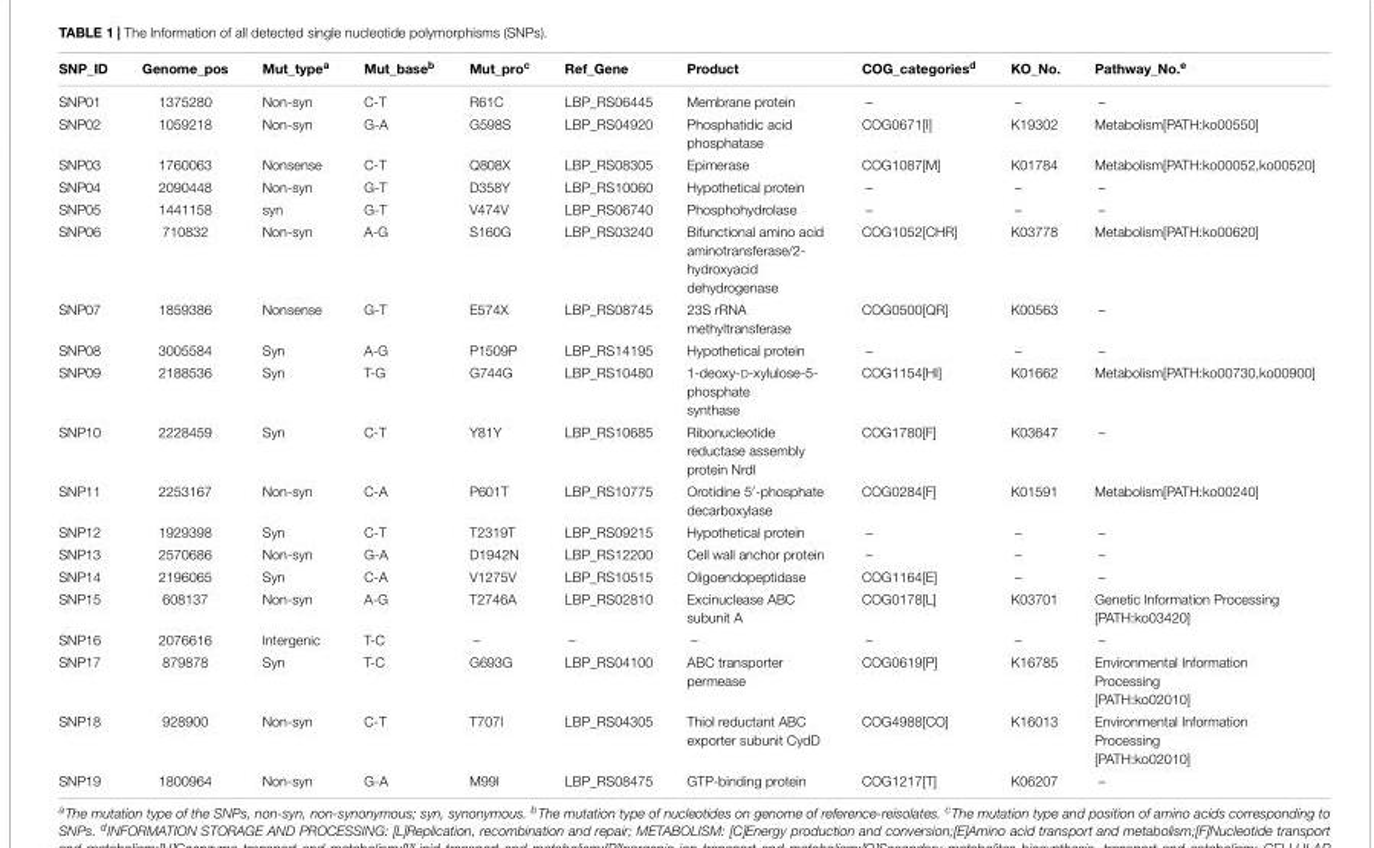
<table><thead><tr><td>SNP_ID</td><td>Genome_pos</td><td>Mut_type<sup>a</sup></td><td>Mut_base<sup>b</sup></td><td>Mut_pro<sup>c</sup></td><td>Ref_Gene</td><td>Product</td><td>COG_categories<sup>d</sup></td><td>KO_No.</td><td>Pathway_No.<sup>e</sup></td></tr></thead><tbody><tr><td>SNP01</td><td>1375280</td><td>Non-syn</td><td>C-T</td><td>R61C</td><td>LBP_RS06445</td><td>Membrane protein</td><td>–</td><td>–</td><td>–</td></tr><tr><td>SNP02</td><td>1059218</td><td>Non-syn</td><td>G-A</td><td>G598S</td><td>LBP_RS04920</td><td>Phosphatidic acid phosphatase</td><td>COG0671[I]</td><td>K19302</td><td>Metabolism[PATH:ko00550]</td></tr><tr><td>SNP03</td><td>1760063</td><td>Nonsense</td><td>C-T</td><td>Q808X</td><td>LBP_RS08305</td><td>Epimerase</td><td>COG1087[M]</td><td>K01784</td><td>Metabolism[PATH:ko00052,ko00520]</td></tr><tr><td>SNP04</td><td>2090448</td><td>Non-syn</td><td>G-T</td><td>D358Y</td><td>LBP_RS10060</td><td>Hypothetical protein</td><td>–</td><td>–</td><td>–</td></tr><tr><td>SNP05</td><td>1441158</td><td>syn</td><td>G-T</td><td>V474V</td><td>LBP_RS06740</td><td>Phosphohydrolase</td><td>–</td><td>–</td><td>–</td></tr><tr><td>SNP06</td><td>710832</td><td>Non-syn</td><td>A-G</td><td>S160G</td><td>LBP_RS03240</td><td>Bifunctional amino acid aminotransferase/2- hydroxyacid dehydrogenase</td><td>COG1052[CHR]</td><td>K03778</td><td>Metabolism[PATH:ko00620]</td></tr><tr><td>SNP07</td><td>1859386</td><td>Nonsense</td><td>G-T</td><td>E574X</td><td>LBP_RS08745</td><td>23S rRNA methyltransferase</td><td>COG0500[QR]</td><td>K00563</td><td>–</td></tr><tr><td>SNP08</td><td>3005584</td><td>Syn</td><td>A-G</td><td>P1509P</td><td>LBP_RS14195</td><td>Hypothetical protein</td><td>–</td><td>–</td><td>–</td></tr><tr><td>SNP09</td><td>2188536</td><td>Syn</td><td>T-G</td><td>G744G</td><td>LBP_RS10480</td><td>1-deoxy-D-xylulose-5- phosphate synthase</td><td>COG1154[HI]</td><td>K01662</td><td>Metabolism[PATH:ko00730,ko00900]</td></tr><tr><td>SNP10</td><td>2228459</td><td>Syn</td><td>C-T</td><td>Y81Y</td><td>LBP_RS10685</td><td>Ribonucleotide reductase assembly protein NrdI</td><td>COG1780[F]</td><td>K03647</td><td>–</td></tr><tr><td>SNP11</td><td>2253167</td><td>Non-syn</td><td>C-A</td><td>P601T</td><td>LBP_RS10775</td><td>Orotidine 5′-phosphate decarboxylase</td><td>COG0284[F]</td><td>K01591</td><td>Metabolism[PATH:ko00240]</td></tr><tr><td>SNP12</td><td>1929398</td><td>Syn</td><td>C-T</td><td>T2319T</td><td>LBP_RS09215</td><td>Hypothetical protein</td><td>–</td><td>–</td><td>–</td></tr><tr><td>SNP13</td><td>2570686</td><td>Non-syn</td><td>G-A</td><td>D1942N</td><td>LBP_RS12200</td><td>Cell wall anchor protein</td><td>–</td><td>–</td><td>–</td></tr><tr><td>SNP14</td><td>2196065</td><td>Syn</td><td>C-A</td><td>V1275V</td><td>LBP_RS10515</td><td>Oligoendopeptidase</td><td>COG1164[E]</td><td>–</td><td>–</td></tr><tr><td>SNP15</td><td>608137</td><td>Non-syn</td><td>A-G</td><td>T2746A</td><td>LBP_RS02810</td><td>Excinuclease ABC subunit A</td><td>COG0178[L]</td><td>K03701</td><td>Genetic Information Processing [PATH:ko03420]</td></tr><tr><td>SNP16</td><td>2076616</td><td>Intergenic</td><td>T-C</td><td>–</td><td>–</td><td>–</td><td>–</td><td>–</td><td>–</td></tr><tr><td>SNP17</td><td>879878</td><td>Syn</td><td>T-C</td><td>G693G</td><td>LBP_RS04100</td><td>ABC transporter permease</td><td>COG0619[P]</td><td>K16785</td><td>Environmental Information Processing [PATH:ko02010]</td></tr><tr><td>SNP18</td><td>928900</td><td>Non-syn</td><td>C-T</td><td>T707I</td><td>LBP_RS04305</td><td>Thiol reductant ABC exporter subunit CydD</td><td>COG4988[CO]</td><td>K16013</td><td>Environmental Information Processing [PATH:ko02010]</td></tr><tr><td>SNP19</td><td>1800964</td><td>Non-syn</td><td>G-A</td><td>M99I</td><td>LBP_RS08475</td><td>GTP-binding protein</td><td>COG1217[T]</td><td>K06207</td><td>–</td></tr></tbody></table>